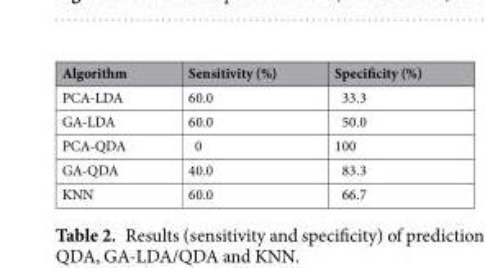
<table><thead><tr><td>Algorithm</td><td>Sensitivity (%)</td><td>Specificity (%)</td></tr></thead><tbody><tr><td>PCA-LDA</td><td>60.0</td><td>33.3</td></tr><tr><td>GA-LDA</td><td>60.0</td><td>50.0</td></tr><tr><td>PCA-QDA</td><td>0</td><td>100</td></tr><tr><td>GA-QDA</td><td>40.0</td><td>83.3</td></tr><tr><td>KNN</td><td>60.0</td><td>66.7</td></tr></tbody></table>